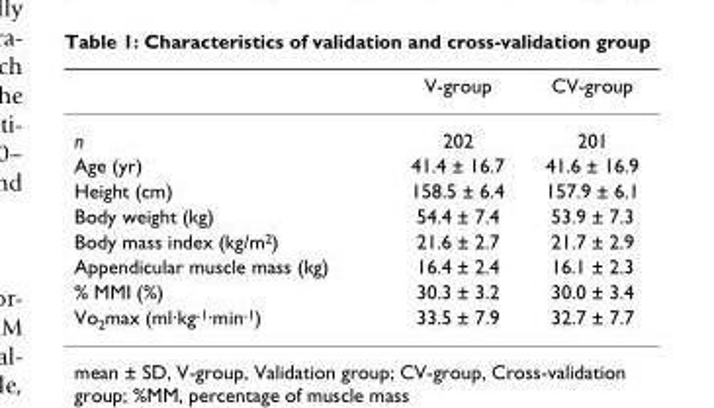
<table><thead><tr><td></td><td>V-group</td><td>CV-group</td></tr></thead><tbody><tr><td>n</td><td>202</td><td>201</td></tr><tr><td>Age (yr)</td><td>41.4 ± 16.7</td><td>41.6 ± 16.9</td></tr><tr><td>Height (cm)</td><td>158.5 ± 6.4</td><td>157.9 ± 6.1</td></tr><tr><td>Body weight (kg)</td><td>54.4 ± 7.4</td><td>53.9 ± 7.3</td></tr><tr><td>Body mass index (kg/m<sup>2</sup>)</td><td>21.6 ± 2.7</td><td>21.7 ± 2.9</td></tr><tr><td>Appendicular muscle mass (kg)</td><td>16.4 ± 2.4</td><td>16.1 ± 2.3</td></tr><tr><td>% MMI (%)</td><td>30.3 ± 3.2</td><td>30.0 ± 3.4</td></tr><tr><td>Vo<sub>2</sub>max (ml·kg<sup>-1</sup>·min<sup>-1</sup>)</td><td>33.5 ± 7.9</td><td>32.7 ± 7.7</td></tr></tbody></table>